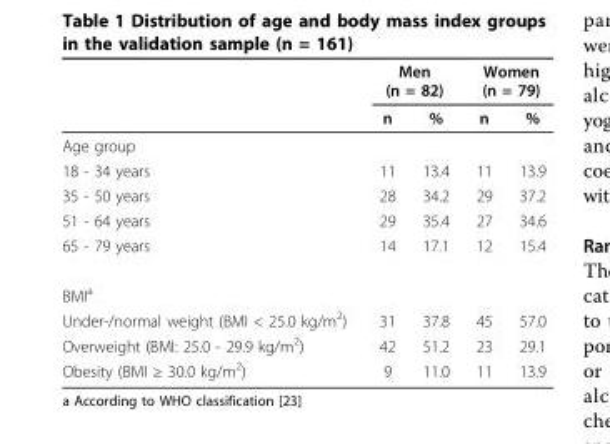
<table><thead><tr><td rowspan="2"></td><td colspan="2">Men (n = 82)</td><td colspan="2">Women (n = 79)</td></tr><tr><td>n</td><td>%</td><td>n</td><td>%</td></tr></thead><tbody><tr><td colspan="5">Age group</td></tr><tr><td>18 - 34 years</td><td>11</td><td>13.4</td><td>11</td><td>13.9</td></tr><tr><td>35 - 50 years</td><td>28</td><td>34.2</td><td>29</td><td>37.2</td></tr><tr><td>51 - 64 years</td><td>29</td><td>35.4</td><td>27</td><td>34.6</td></tr><tr><td>65 - 79 years</td><td>14</td><td>17.1</td><td>12</td><td>15.4</td></tr><tr><td colspan="5">BMI<sup>a</sup></td></tr><tr><td>Under-/normal weight (BMI &lt; 25.0 kg/m<sup>2</sup>)</td><td>31</td><td>37.8</td><td>45</td><td>57.0</td></tr><tr><td>Overweight (BMI: 25.0 - 29.9 kg/m<sup>2</sup>)</td><td>42</td><td>51.2</td><td>23</td><td>29.1</td></tr><tr><td>Obesity (BMI ≥ 30.0 kg/m<sup>2</sup>)</td><td>9</td><td>11.0</td><td>11</td><td>13.9</td></tr></tbody></table>